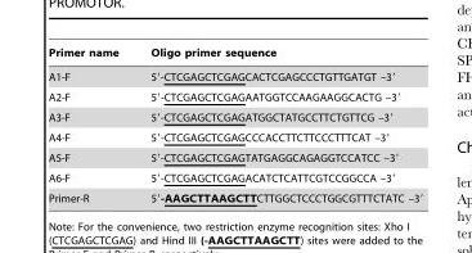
<table><thead><tr><td>Primer name</td><td>Oligo primer sequence</td></tr></thead><tbody><tr><td>A1-F</td><td>5′-CTCGAGCTCGAGCACTCGAGCCCTGTTGATGT –3′</td></tr><tr><td>A2-F</td><td>5′-CTCGAGCTCGAGAATGGTCCAAGAAGGCACTG –3′</td></tr><tr><td>A3-F</td><td>5′-CTCGAGCTCGAGATGGCTATGCCTTCTGTTCG –3′</td></tr><tr><td>A4-F</td><td>5′-CTCGAGCTCGAGCCCACCTTCTTCCCTTTCAT –3′</td></tr><tr><td>A5-F</td><td>5′-CTCGAGCTCGAGTATGAGGCAGAGGTCCATCC –3′</td></tr><tr><td>A6-F</td><td>5′-CTCGAGCTCGAGACATCTCATTCGTCCGGCCA –3′</td></tr><tr><td>Primer-R</td><td>5′-AAGCTTAAGCTTCTTGGCTCCCTGGCGTTTCTATC –3′</td></tr></tbody></table>